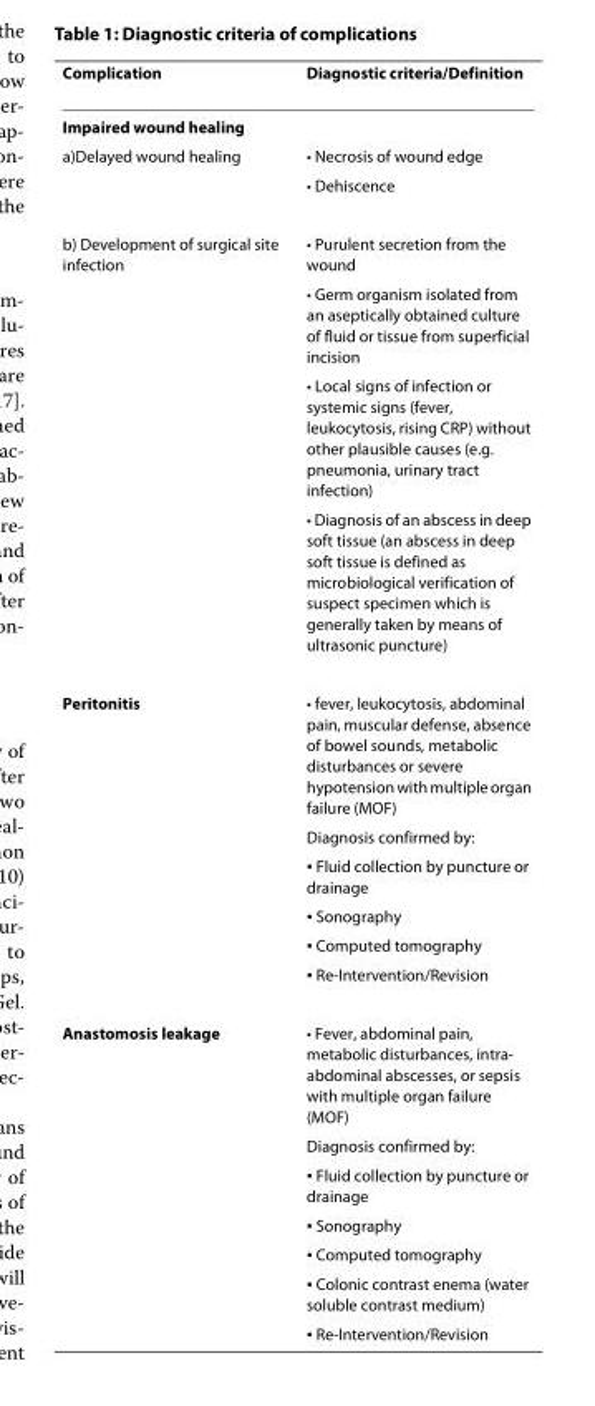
<table><thead><tr><td>Complication</td><td>Diagnostic criteria/Definition</td></tr></thead><tbody><tr><td colspan="2">Impaired wound healing</td></tr><tr><td rowspan="2">a)Delayed wound healing</td><td>• Necrosis of wound edge</td></tr><tr><td>• Dehiscence</td></tr><tr><td rowspan="4">b) Development of surgical site infection</td><td>• Purulent secretion from the wound</td></tr><tr><td>• Germ organism isolated from an aseptically obtained culture of fluid or tissue from superficial incision</td></tr><tr><td>• Local signs of infection or systemic signs (fever, leukocytosis, rising CRP) without other plausible causes (e.g. pneumonia, urinary tract infection)</td></tr><tr><td>• Diagnosis of an abscess in deep soft tissue (an abscess in deep soft tissue is defined as microbiological verification of suspect specimen which is generally taken by means of ultrasonic puncture)</td></tr><tr><td rowspan="6">Peritonitis</td><td>• fever, leukocytosis, abdominal pain, muscular defense, absence of bowel sounds, metabolic disturbances or severe hypotension with multiple organ failure (MOF)</td></tr><tr><td>Diagnosis confirmed by:</td></tr><tr><td>▪ Fluid collection by puncture or drainage</td></tr><tr><td>▪ Sonography</td></tr><tr><td>▪ Computed tomography</td></tr><tr><td>▪ Re-Intervention/Revision</td></tr><tr><td rowspan="7">Anastomosis leakage</td><td>• Fever, abdominal pain, metabolic disturbances, intra- abdominal abscesses, or sepsis with multiple organ failure (MOF)</td></tr><tr><td>Diagnosis confirmed by:</td></tr><tr><td>▪ Fluid collection by puncture or drainage</td></tr><tr><td>▪ Sonography</td></tr><tr><td>▪ Computed tomography</td></tr><tr><td>▪ Colonic contrast enema (water soluble contrast medium)</td></tr><tr><td>▪ Re-Intervention/Revision</td></tr></tbody></table>